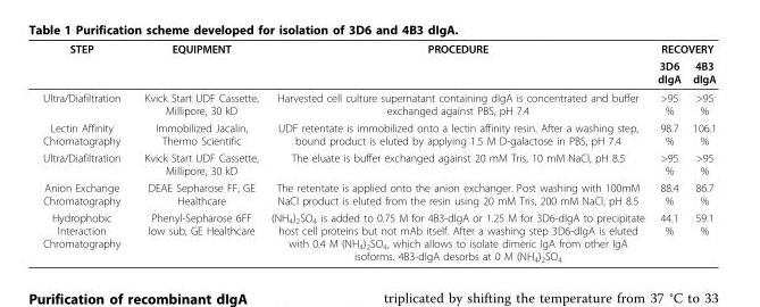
<table><thead><tr><td rowspan="2">STEP</td><td rowspan="2">EQUIPMENT</td><td rowspan="2">PROCEDURE</td><td colspan="2">RECOVERY</td></tr><tr><td>3D6 dIgA</td><td>4B3 dIgA</td></tr></thead><tbody><tr><td>Ultra/Diafiltration</td><td>Kvick Start UDF Cassette, Millipore, 30 kD</td><td>Harvested cell culture supernatant containing dIgA is concentrated and buffer exchanged against PBS, pH 7.4</td><td>&gt;95 %</td><td>&gt;95 %</td></tr><tr><td>Lectin Affinity Chromatography</td><td>Immobilized Jacalin, Thermo Scientific</td><td>UDF retentate is immobilized onto a lectin affinity resin. After a washing step, bound product is eluted by applying 1.5 M D-galactose in PBS, pH 7.4</td><td>98.7 %</td><td>106.1 %</td></tr><tr><td>Ultra/Diafiltration</td><td>Kvick Start UDF Cassette, Millipore, 30 kD</td><td>The eluate is buffer exchanged against 20 mM Tris, 10 mM NaCl, pH 8.5</td><td>&gt;95 %</td><td>&gt;95 %</td></tr><tr><td>Anion Exchange Chromatography</td><td>DEAE Sepharose FF, GE Healthcare</td><td>The retentate is applied onto the anion exchanger. Post washing with 100mM NaCl product is eluted from the resin using 20 mM Tris, 200 mM NaCl, pH 8.5</td><td>88.4 %</td><td>86.7 %</td></tr><tr><td>Hydrophobic Interaction Chromatography</td><td>Phenyl-Sepharose 6FF low sub, GE Healthcare</td><td>(NH<sub>4</sub>)<sub>2</sub>SO<sub>4</sub> is added to 0.75 M for 4B3-dIgA or 1.25 M for 3D6-dIgA to precipitate host cell proteins but not mAb itself. After a washing step 3D6-dIgA is eluted with 0.4 M (NH<sub>4</sub>)<sub>2</sub>SO<sub>4</sub>, which allows to isolate dimeric IgA from other IgA isoforms. 4B3-dIgA desorbs at 0 M (NH<sub>4</sub>)<sub>2</sub>SO<sub>4</sub></td><td>44.1 %</td><td>59.1 %</td></tr></tbody></table>